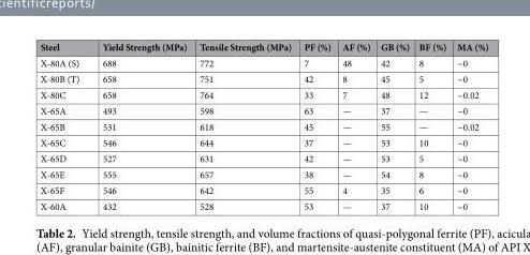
<table><thead><tr><td>Steel</td><td>Yield Strength (MPa)</td><td>Tensile Strength (MPa)</td><td>PF (%)</td><td>AF (%)</td><td>GB (%)</td><td>BF (%)</td><td>MA (%)</td></tr></thead><tbody><tr><td>X-80A (S)</td><td>688</td><td>772</td><td>7</td><td>48</td><td>42</td><td>8</td><td>~0</td></tr><tr><td>X-80B (T)</td><td>658</td><td>751</td><td>42</td><td>8</td><td>45</td><td>5</td><td>~0</td></tr><tr><td>X-80C</td><td>658</td><td>764</td><td>33</td><td>7</td><td>48</td><td>12</td><td>~0.02</td></tr><tr><td>X-65A</td><td>493</td><td>598</td><td>63</td><td>—</td><td>37</td><td>—</td><td>~0</td></tr><tr><td>X-65B</td><td>531</td><td>618</td><td>45</td><td>—</td><td>55</td><td>—</td><td>~0.02</td></tr><tr><td>X-65C</td><td>546</td><td>644</td><td>37</td><td>—</td><td>53</td><td>10</td><td>~0</td></tr><tr><td>X-65D</td><td>527</td><td>631</td><td>42</td><td>—</td><td>53</td><td>5</td><td>~0</td></tr><tr><td>X-65E</td><td>555</td><td>657</td><td>38</td><td>—</td><td>54</td><td>8</td><td>~0</td></tr><tr><td>X-65F</td><td>546</td><td>642</td><td>55</td><td>4</td><td>35</td><td>6</td><td>~0</td></tr><tr><td>X-60A</td><td>432</td><td>528</td><td>53</td><td>—</td><td>37</td><td>10</td><td>~0</td></tr></tbody></table>